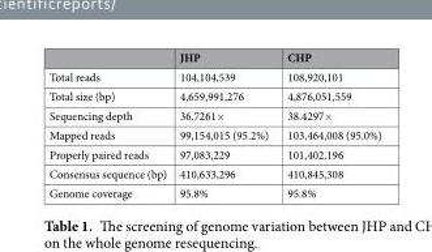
<table><thead><tr><td></td><td>JHP</td><td>CHP</td></tr></thead><tbody><tr><td>Total reads</td><td>104,104,539</td><td>108,920,101</td></tr><tr><td>Total size (bp)</td><td>4,659,991,276</td><td>4,876,051,559</td></tr><tr><td>Sequencing depth</td><td>36.7261×</td><td>38.4297×</td></tr><tr><td>Mapped reads</td><td>99,154,015 (95.2%)</td><td>103,464,008 (95.0%)</td></tr><tr><td>Properly paired reads</td><td>97,083,229</td><td>101,402,196</td></tr><tr><td>Consensus sequence (bp)</td><td>410,633,296</td><td>410,845,308</td></tr><tr><td>Genome coverage</td><td>95.8%</td><td>95.8%</td></tr></tbody></table>